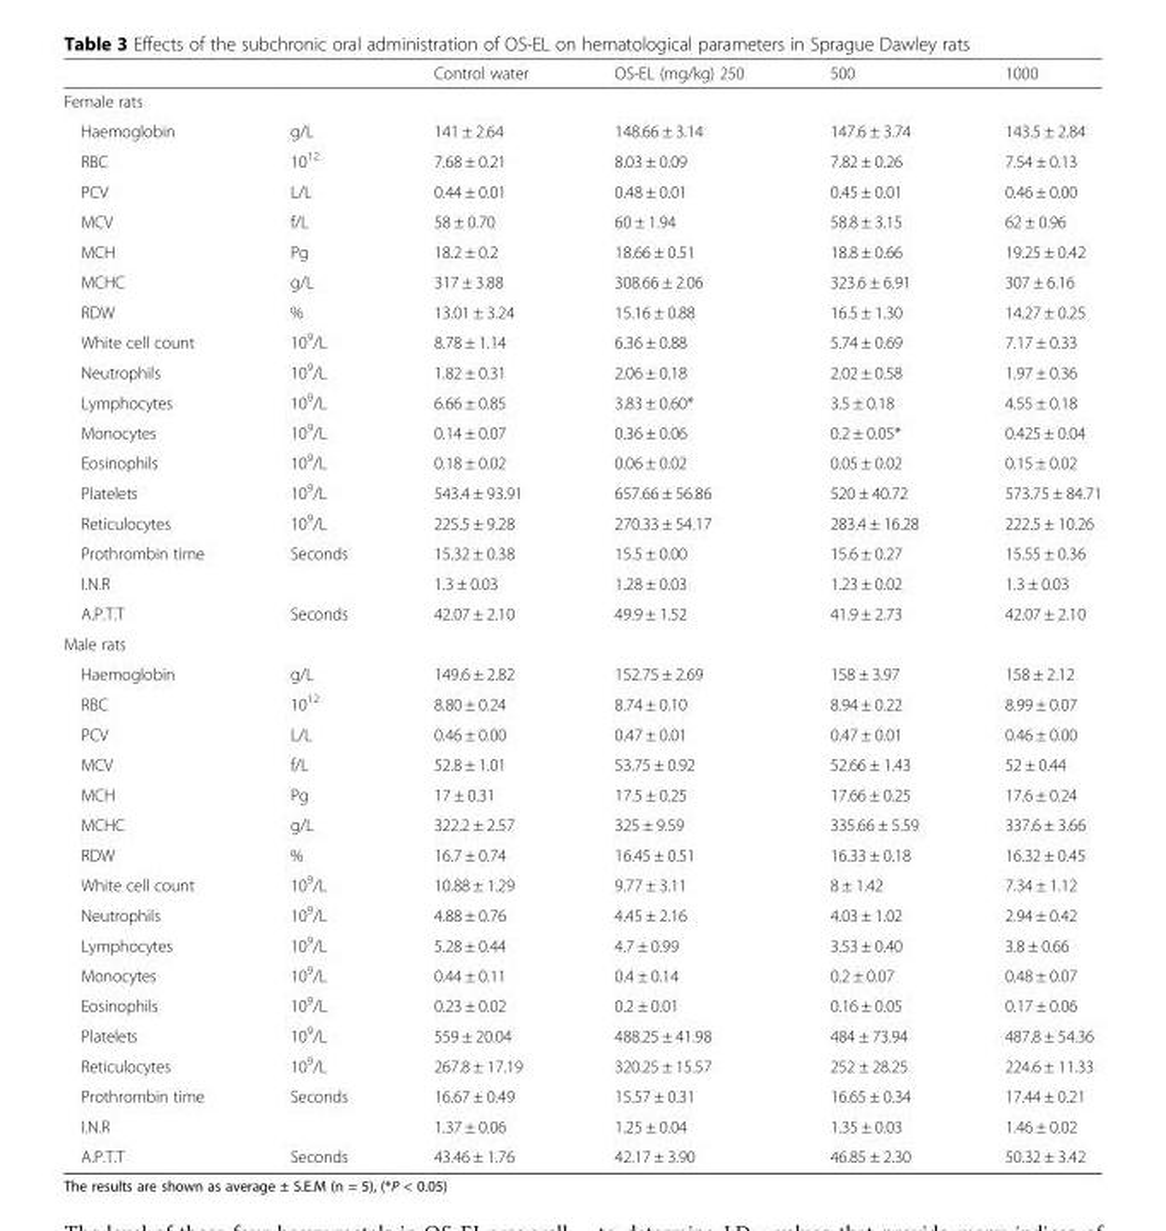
<table><thead><tr><td></td><td></td><td>Control water</td><td>OS-EL (mg/kg) 250</td><td>500</td><td>1000</td></tr></thead><tbody><tr><td colspan="6">Female rats</td></tr><tr><td>Haemoglobin</td><td>g/L</td><td>141 ± 2.64</td><td>148.66 ± 3.14</td><td>147.6 ± 3.74</td><td>143.5 ± 2.84</td></tr><tr><td>RBC</td><td>10<sup>12</sup></td><td>7.68 ± 0.21</td><td>8.03 ± 0.09</td><td>7.82 ± 0.26</td><td>7.54 ± 0.13</td></tr><tr><td>PCV</td><td>L/L</td><td>0.44 ± 0.01</td><td>0.48 ± 0.01</td><td>0.45 ± 0.01</td><td>0.46 ± 0.00</td></tr><tr><td>MCV</td><td>f/L</td><td>58 ± 0.70</td><td>60 ± 1.94</td><td>58.8 ± 3.15</td><td>62 ± 0.96</td></tr><tr><td>MCH</td><td>Pg</td><td>18.2 ± 0.2</td><td>18.66 ± 0.51</td><td>18.8 ± 0.66</td><td>19.25 ± 0.42</td></tr><tr><td>MCHC</td><td>g/L</td><td>317 ± 3.88</td><td>308.66 ± 2.06</td><td>323.6 ± 6.91</td><td>307 ± 6.16</td></tr><tr><td>RDW</td><td>%</td><td>13.01 ± 3.24</td><td>15.16 ± 0.88</td><td>16.5 ± 1.30</td><td>14.27 ± 0.25</td></tr><tr><td>White cell count</td><td>10<sup>9</sup>/L</td><td>8.78 ± 1.14</td><td>6.36 ± 0.88</td><td>5.74 ± 0.69</td><td>7.17 ± 0.33</td></tr><tr><td>Neutrophils</td><td>10<sup>9</sup>/L</td><td>1.82 ± 0.31</td><td>2.06 ± 0.18</td><td>2.02 ± 0.58</td><td>1.97 ± 0.36</td></tr><tr><td>Lymphocytes</td><td>10<sup>9</sup>/L</td><td>6.66 ± 0.85</td><td>3.83 ± 0.60*</td><td>3.5 ± 0.18</td><td>4.55 ± 0.18</td></tr><tr><td>Monocytes</td><td>10<sup>9</sup>/L</td><td>0.14 ± 0.07</td><td>0.36 ± 0.06</td><td>0.2 ± 0.05*</td><td>0.425 ± 0.04</td></tr><tr><td>Eosinophils</td><td>10<sup>9</sup>/L</td><td>0.18 ± 0.02</td><td>0.06 ± 0.02</td><td>0.05 ± 0.02</td><td>0.15 ± 0.02</td></tr><tr><td>Platelets</td><td>10<sup>9</sup>/L</td><td>543.4 ± 93.91</td><td>657.66 ± 56.86</td><td>520 ± 40.72</td><td>573.75 ± 84.71</td></tr><tr><td>Reticulocytes</td><td>10<sup>9</sup>/L</td><td>225.5 ± 9.28</td><td>270.33 ± 54.17</td><td>283.4 ± 16.28</td><td>222.5 ± 10.26</td></tr><tr><td>Prothrombin time</td><td>Seconds</td><td>15.32 ± 0.38</td><td>15.5 ± 0.00</td><td>15.6 ± 0.27</td><td>15.55 ± 0.36</td></tr><tr><td>I.N.R</td><td></td><td>1.3 ± 0.03</td><td>1.28 ± 0.03</td><td>1.23 ± 0.02</td><td>1.3 ± 0.03</td></tr><tr><td>A.P.T.T</td><td>Seconds</td><td>42.07 ± 2.10</td><td>49.9 ± 1.52</td><td>41.9 ± 2.73</td><td>42.07 ± 2.10</td></tr><tr><td colspan="6">Male rats</td></tr><tr><td>Haemoglobin</td><td>g/L</td><td>149.6 ± 2.82</td><td>152.75 ± 2.69</td><td>158 ± 3.97</td><td>158 ± 2.12</td></tr><tr><td>RBC</td><td>10<sup>12</sup></td><td>8.80 ± 0.24</td><td>8.74 ± 0.10</td><td>8.94 ± 0.22</td><td>8.99 ± 0.07</td></tr><tr><td>PCV</td><td>L/L</td><td>0.46 ± 0.00</td><td>0.47 ± 0.01</td><td>0.47 ± 0.01</td><td>0.46 ± 0.00</td></tr><tr><td>MCV</td><td>f/L</td><td>52.8 ± 1.01</td><td>53.75 ± 0.92</td><td>52.66 ± 1.43</td><td>52 ± 0.44</td></tr><tr><td>MCH</td><td>Pg</td><td>17 ± 0.31</td><td>17.5 ± 0.25</td><td>17.66 ± 0.25</td><td>17.6 ± 0.24</td></tr><tr><td>MCHC</td><td>g/L</td><td>322.2 ± 2.57</td><td>325 ± 9.59</td><td>335.66 ± 5.59</td><td>337.6 ± 3.66</td></tr><tr><td>RDW</td><td>%</td><td>16.7 ± 0.74</td><td>16.45 ± 0.51</td><td>16.33 ± 0.18</td><td>16.32 ± 0.45</td></tr><tr><td>White cell count</td><td>10<sup>9</sup>/L</td><td>10.88 ± 1.29</td><td>9.77 ± 3.11</td><td>8 ± 1.42</td><td>7.34 ± 1.12</td></tr><tr><td>Neutrophils</td><td>10<sup>9</sup>/L</td><td>4.88 ± 0.76</td><td>4.45 ± 2.16</td><td>4.03 ± 1.02</td><td>2.94 ± 0.42</td></tr><tr><td>Lymphocytes</td><td>10<sup>9</sup>/L</td><td>5.28 ± 0.44</td><td>4.7 ± 0.99</td><td>3.53 ± 0.40</td><td>3.8 ± 0.66</td></tr><tr><td>Monocytes</td><td>10<sup>9</sup>/L</td><td>0.44 ± 0.11</td><td>0.4 ± 0.14</td><td>0.2 ± 0.07</td><td>0.48 ± 0.07</td></tr><tr><td>Eosinophils</td><td>10<sup>9</sup>/L</td><td>0.23 ± 0.02</td><td>0.2 ± 0.01</td><td>0.16 ± 0.05</td><td>0.17 ± 0.06</td></tr><tr><td>Platelets</td><td>10<sup>9</sup>/L</td><td>559 ± 20.04</td><td>488.25 ± 41.98</td><td>484 ± 73.94</td><td>487.8 ± 54.36</td></tr><tr><td>Reticulocytes</td><td>10<sup>9</sup>/L</td><td>267.8 ± 17.19</td><td>320.25 ± 15.57</td><td>252 ± 28.25</td><td>224.6 ± 11.33</td></tr><tr><td>Prothrombin time</td><td>Seconds</td><td>16.67 ± 0.49</td><td>15.57 ± 0.31</td><td>16.65 ± 0.34</td><td>17.44 ± 0.21</td></tr><tr><td>I.N.R</td><td></td><td>1.37 ± 0.06</td><td>1.25 ± 0.04</td><td>1.35 ± 0.03</td><td>1.46 ± 0.02</td></tr><tr><td>A.P.T.T</td><td>Seconds</td><td>43.46 ± 1.76</td><td>42.17 ± 3.90</td><td>46.85 ± 2.30</td><td>50.32 ± 3.42</td></tr></tbody></table>